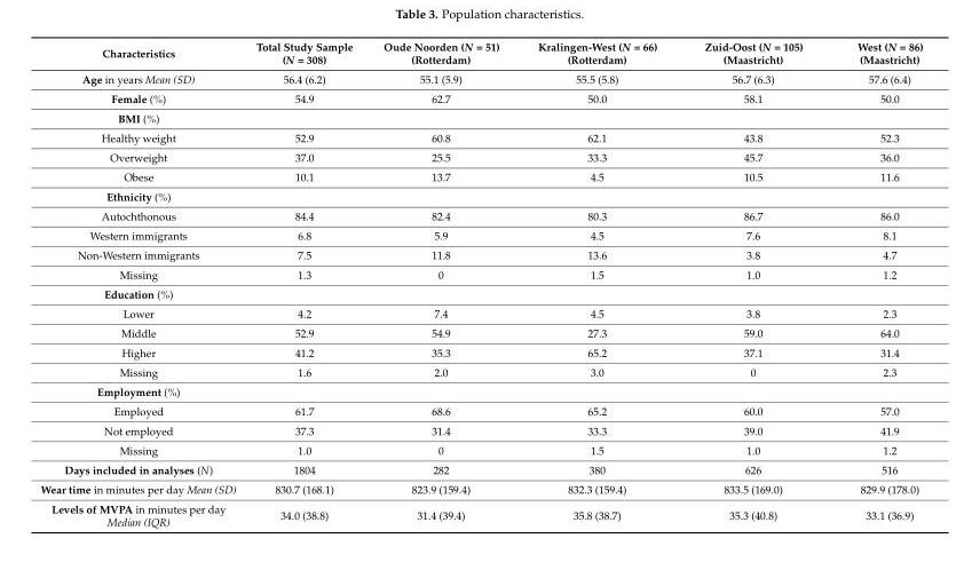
<table><thead><tr><td>Characteristics</td><td>Total Study Sample (N = 308)</td><td>Oude Noorden (N = 51) (Rotterdam)</td><td>Kralingen-West (N = 66) (Rotterdam)</td><td>Zuid-Oost (N = 105) (Maastricht)</td><td>West (N = 86) (Maastricht)</td></tr></thead><tbody><tr><td>Age in years Mean (SD)</td><td>56.4 (6.2)</td><td>55.1 (5.9)</td><td>55.5 (5.8)</td><td>56.7 (6.3)</td><td>57.6 (6.4)</td></tr><tr><td>Female (%)</td><td>54.9</td><td>62.7</td><td>50.0</td><td>58.1</td><td>50.0</td></tr><tr><td colspan="6">BMI (%)</td></tr><tr><td>Healthy weight</td><td>52.9</td><td>60.8</td><td>62.1</td><td>43.8</td><td>52.3</td></tr><tr><td>Overweight</td><td>37.0</td><td>25.5</td><td>33.3</td><td>45.7</td><td>36.0</td></tr><tr><td>Obese</td><td>10.1</td><td>13.7</td><td>4.5</td><td>10.5</td><td>11.6</td></tr><tr><td colspan="6">Ethnicity (%)</td></tr><tr><td>Autochthonous</td><td>84.4</td><td>82.4</td><td>80.3</td><td>86.7</td><td>86.0</td></tr><tr><td>Western immigrants</td><td>6.8</td><td>5.9</td><td>4.5</td><td>7.6</td><td>8.1</td></tr><tr><td>Non-Western immigrants</td><td>7.5</td><td>11.8</td><td>13.6</td><td>3.8</td><td>4.7</td></tr><tr><td>Missing</td><td>1.3</td><td>0</td><td>1.5</td><td>1.0</td><td>1.2</td></tr><tr><td colspan="6">Education (%)</td></tr><tr><td>Lower</td><td>4.2</td><td>7.4</td><td>4.5</td><td>3.8</td><td>2.3</td></tr><tr><td>Middle</td><td>52.9</td><td>54.9</td><td>27.3</td><td>59.0</td><td>64.0</td></tr><tr><td>Higher</td><td>41.2</td><td>35.3</td><td>65.2</td><td>37.1</td><td>31.4</td></tr><tr><td>Missing</td><td>1.6</td><td>2.0</td><td>3.0</td><td>0</td><td>2.3</td></tr><tr><td colspan="6">Employment (%)</td></tr><tr><td>Employed</td><td>61.7</td><td>68.6</td><td>65.2</td><td>60.0</td><td>57.0</td></tr><tr><td>Not employed</td><td>37.3</td><td>31.4</td><td>33.3</td><td>39.0</td><td>41.9</td></tr><tr><td>Missing</td><td>1.0</td><td>0</td><td>1.5</td><td>1.0</td><td>1.2</td></tr><tr><td>Days included in analyses (N)</td><td>1804</td><td>282</td><td>380</td><td>626</td><td>516</td></tr><tr><td>Wear time in minutes per day Mean (SD)</td><td>830.7 (168.1)</td><td>823.9 (159.4)</td><td>832.3 (159.4)</td><td>833.5 (169.0)</td><td>829.9 (178.0)</td></tr><tr><td>Levels of MVPA in minutes per day Median (IQR)</td><td>34.0 (38.8)</td><td>31.4 (39.4)</td><td>35.8 (38.7)</td><td>35.3 (40.8)</td><td>33.1 (36.9)</td></tr></tbody></table>